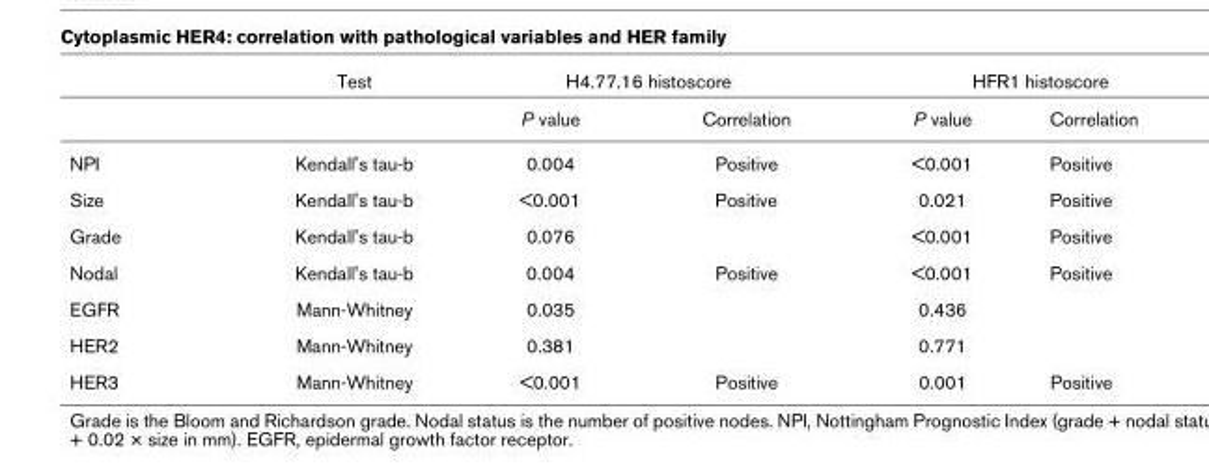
<table><thead><tr><td rowspan="2"></td><td rowspan="2">Test</td><td colspan="2">H4.77.16 histoscore</td><td colspan="2">HFR1 histoscore</td></tr><tr><td>P value</td><td>Correlation</td><td>P value</td><td>Correlation</td></tr></thead><tbody><tr><td>NPI</td><td>Kendall&#x27;s tau-b</td><td>0.004</td><td>Positive</td><td>&lt;0.001</td><td>Positive</td></tr><tr><td>Size</td><td>Kendall&#x27;s tau-b</td><td>&lt;0.001</td><td>Positive</td><td>0.021</td><td>Positive</td></tr><tr><td>Grade</td><td>Kendall&#x27;s tau-b</td><td>0.076</td><td></td><td>&lt;0.001</td><td>Positive</td></tr><tr><td>Nodal</td><td>Kendall&#x27;s tau-b</td><td>0.004</td><td>Positive</td><td>&lt;0.001</td><td>Positive</td></tr><tr><td>EGFR</td><td>Mann-Whitney</td><td>0.035</td><td></td><td>0.436</td><td></td></tr><tr><td>HER2</td><td>Mann-Whitney</td><td>0.381</td><td></td><td>0.771</td><td></td></tr><tr><td>HER3</td><td>Mann-Whitney</td><td>&lt;0.001</td><td>Positive</td><td>0.001</td><td>Positive</td></tr></tbody></table>